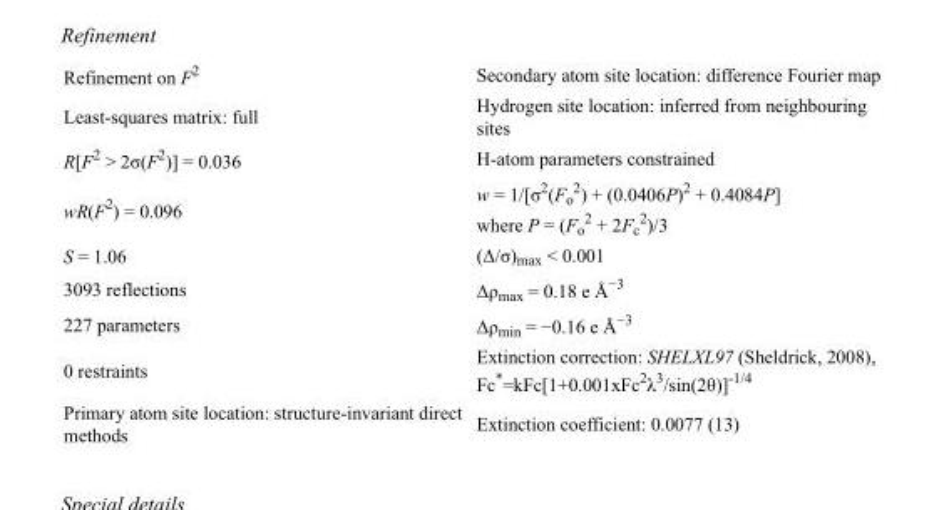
<table><tbody><tr><td>Refinement on F<sup>2</sup></td><td>Secondary atom site location: difference Fourier map</td></tr><tr><td>Least-squares matrix: full</td><td>Hydrogen site location: inferred from neighbouring sites</td></tr><tr><td>R[F<sup>2</sup> &gt; 2σ(F<sup>2</sup>)] = 0.036</td><td>H-atom parameters constrained</td></tr><tr><td>wR(F<sup>2</sup>) = 0.096</td><td>w = 1/[σ<sup>2</sup>(F<sub>o</sub> <sup>2</sup>) + (0.0406P)<sup>2</sup> + 0.4084P] where P = (F<sub>o</sub> <sup>2</sup> + 2F<sub>c</sub> <sup>2</sup>)/3</td></tr><tr><td>S = 1.06</td><td>(Δ/σ)<sub>max</sub> &lt; 0.001</td></tr><tr><td>3093 reflections</td><td>Δρ<sub>max</sub> = 0.18 e Å<sup>−3</sup></td></tr><tr><td>227 parameters</td><td>Δρ<sub>min</sub> = −0.16 e Å<sup>−3</sup></td></tr><tr><td>0 restraints</td><td>Extinction correction: SHELXL97 (Sheldrick, 2008), Fc*=kFc[1+0.001xFc<sup>2</sup>λ<sup>3</sup>/sin(2θ)]<sup>-1/4</sup></td></tr><tr><td>Primary atom site location: structure-invariant direct methods</td><td>Extinction coefficient: 0.0077 (13)</td></tr></tbody></table>